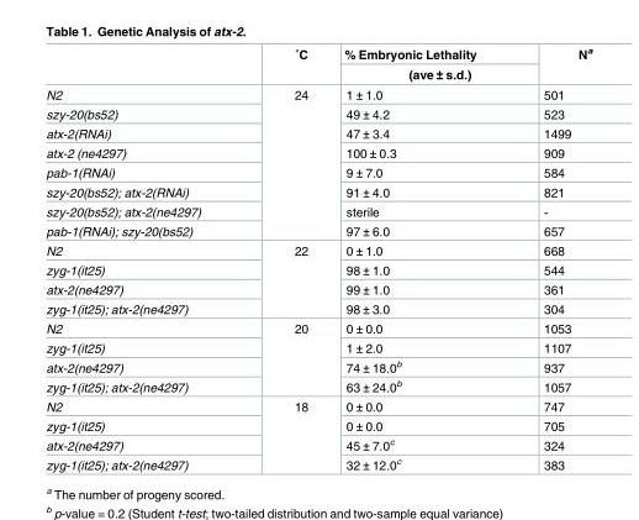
<table><thead><tr><td rowspan="2"></td><td rowspan="2">˚C</td><td rowspan="2">% Embryonic Lethality (ave ± s.d.)</td><td rowspan="2">N<sup>a</sup></td></tr><tr></tr></thead><tbody><tr><td>N2</td><td rowspan="8">24</td><td>1 ± 1.0</td><td>501</td></tr><tr><td>szy-20(bs52)</td><td>49 ± 4.2</td><td>523</td></tr><tr><td>atx-2(RNAi)</td><td>47 ± 3.4</td><td>1499</td></tr><tr><td>atx-2 (ne4297)</td><td>100 ± 0.3</td><td>909</td></tr><tr><td>pab-1(RNAi)</td><td>9 ± 7.0</td><td>584</td></tr><tr><td>szy-20(bs52); atx-2(RNAi)</td><td>91 ± 4.0</td><td>821</td></tr><tr><td>szy-20(bs52); atx-2(ne4297)</td><td>sterile</td><td>-</td></tr><tr><td>pab-1(RNAi); szy-20(bs52)</td><td>97 ± 6.0</td><td>657</td></tr><tr><td>N2</td><td rowspan="4">22</td><td>0 ± 1.0</td><td>668</td></tr><tr><td>zyg-1(it25)</td><td>98 ± 1.0</td><td>544</td></tr><tr><td>atx-2(ne4297)</td><td>99 ± 1.0</td><td>361</td></tr><tr><td>zyg-1(it25); atx-2(ne4297)</td><td>98 ± 3.0</td><td>304</td></tr><tr><td>N2</td><td rowspan="4">20</td><td>0 ± 0.0</td><td>1053</td></tr><tr><td>zyg-1(it25)</td><td>1 ± 2.0</td><td>1107</td></tr><tr><td>atx-2(ne4297)</td><td>74 ± 18.0<sup>b</sup></td><td>937</td></tr><tr><td>zyg-1(it25); atx-2(ne4297)</td><td>63 ± 24.0<sup>b</sup></td><td>1057</td></tr><tr><td>N2</td><td rowspan="4">18</td><td>0 ± 0.0</td><td>747</td></tr><tr><td>zyg-1(it25)</td><td>0 ± 0.0</td><td>705</td></tr><tr><td>atx-2(ne4297)</td><td>45 ± 7.0<sup>c</sup></td><td>324</td></tr><tr><td>zyg-1(it25); atx-2(ne4297)</td><td>32 ± 12.0<sup>c</sup></td><td>383</td></tr></tbody></table>